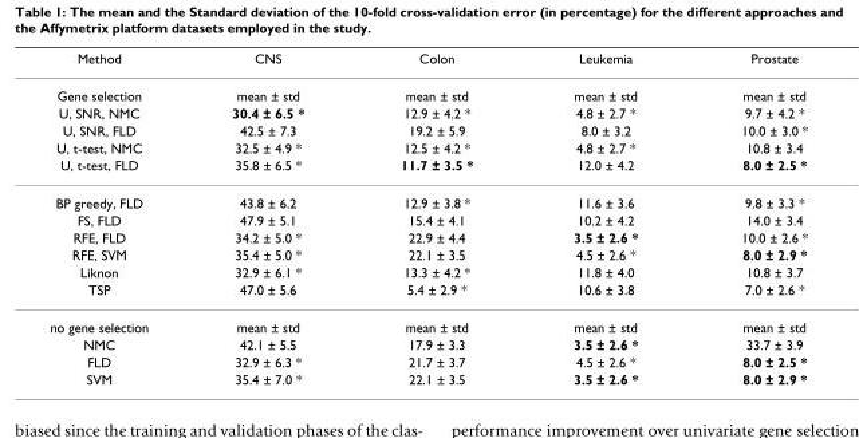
<table><thead><tr><td>Method</td><td>CNS</td><td>Colon</td><td>Leukemia</td><td>Prostate</td></tr></thead><tbody><tr><td>Gene selection</td><td>mean ± std</td><td>mean ± std</td><td>mean ± std</td><td>mean ± std</td></tr><tr><td>U, SNR, NMC</td><td>30.4 ± 6.5 *</td><td>12.9 ± 4.2 *</td><td>4.8 ± 2.7 *</td><td>9.7 ± 4.2 *</td></tr><tr><td>U, SNR, FLD</td><td>42.5 ± 7.3</td><td>19.2 ± 5.9</td><td>8.0 ± 3.2</td><td>10.0 ± 3.0 *</td></tr><tr><td>U, t-test, NMC</td><td>32.5 ± 4.9 *</td><td>12.5 ± 4.2 *</td><td>4.8 ± 2.7 *</td><td>10.8 ± 3.4</td></tr><tr><td>U, t-test, FLD</td><td>35.8 ± 6.5 *</td><td>11.7 ± 3.5 *</td><td>12.0 ± 4.2</td><td>8.0 ± 2.5 *</td></tr><tr><td>BP greedy, FLD</td><td>43.8 ± 6.2</td><td>12.9 ± 3.8 *</td><td>11.6 ± 3.6</td><td>9.8 ± 3.3 *</td></tr><tr><td>FS, FLD</td><td>47.9 ± 5.1</td><td>15.4 ± 4.1</td><td>10.2 ± 4.2</td><td>14.0 ± 3.4</td></tr><tr><td>RFE, FLD</td><td>34.2 ± 5.0 *</td><td>22.9 ± 4.4</td><td>3.5 ± 2.6 *</td><td>10.0 ± 2.6 *</td></tr><tr><td>RFE, SVM</td><td>35.4 ± 5.0 *</td><td>22.1 ± 3.5</td><td>4.5 ± 2.6 *</td><td>8.0 ± 2.9 *</td></tr><tr><td>Liknon</td><td>32.9 ± 6.1 *</td><td>13.3 ± 4.2 *</td><td>11.8 ± 4.0</td><td>10.8 ± 3.7</td></tr><tr><td>TSP</td><td>47.0 ± 5.6</td><td>5.4 ± 2.9 *</td><td>10.6 ± 3.8</td><td>7.0 ± 2.6 *</td></tr><tr><td>no gene selection</td><td>mean ± std</td><td>mean ± std</td><td>mean ± std</td><td>mean ± std</td></tr><tr><td>NMC</td><td>42.1 ± 5.5</td><td>17.9 ± 3.3</td><td>3.5 ± 2.6 *</td><td>33.7 ± 3.9</td></tr><tr><td>FLD</td><td>32.9 ± 6.3 *</td><td>21.7 ± 3.7</td><td>4.5 ± 2.6 *</td><td>8.0 ± 2.5 *</td></tr><tr><td>SVM</td><td>35.4 ± 7.0 *</td><td>22.1 ± 3.5</td><td>3.5 ± 2.6 *</td><td>8.0 ± 2.9 *</td></tr></tbody></table>